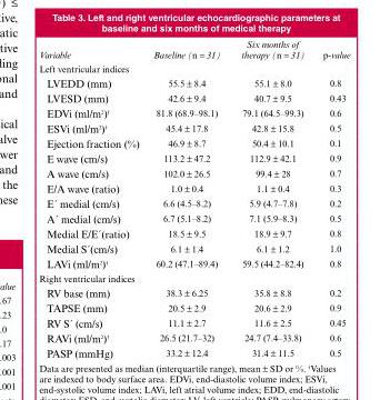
<table><thead><tr><td>Variable</td><td>Baseline (n = 31)</td><td>Six months of therapy (n = 31)</td><td>p-value</td></tr></thead><tbody><tr><td colspan="4">Left ventricular indices</td></tr><tr><td>LVEDD (mm)</td><td>55.5 ± 8.4</td><td>55.1 ± 8.0</td><td>0.8</td></tr><tr><td>LVESD (mm)</td><td>42.6 ± 9.4</td><td>40.7 ± 9.5</td><td>0.43</td></tr><tr><td>EDVi (ml/m<sup>2</sup>)†</td><td>81.8 (68.9–98.1)</td><td>79.1 (64.5–99.3)</td><td>0.6</td></tr><tr><td>ESVi (ml/m<sup>2</sup>)†</td><td>45.4 ± 17.8</td><td>42.8 ± 15.8</td><td>0.5</td></tr><tr><td>Ejection fraction (%)</td><td>46.9 ± 8.7</td><td>50.4 ± 10.1</td><td>0.1</td></tr><tr><td>E wave (cm/s)</td><td>113.2 ± 47.2</td><td>112.9 ± 42.1</td><td>0.9</td></tr><tr><td>A wave (cm/s)</td><td>102.0 ± 26.5</td><td>99.4 ± 28</td><td>0.7</td></tr><tr><td>E/A wave (ratio)</td><td>1.0 ± 0.4</td><td>1.1 ± 0.4</td><td>0.3</td></tr><tr><td>E´ medial (cm/s)</td><td>6.6 (4.5–8.2)</td><td>5.9 (4.7–7.8)</td><td>0.2</td></tr><tr><td>A´ medial (cm/s)</td><td>6.7 (5.1–8.2)</td><td>7.1 (5.9–8.3)</td><td>0.5</td></tr><tr><td>Medial E/E´(ratio)</td><td>18.5 ± 9.5</td><td>18.9 ± 9.7</td><td>0.8</td></tr><tr><td>Medial S´(cm/s)</td><td>6.1 ± 1.4</td><td>6.1 ± 1.2</td><td>1.0</td></tr><tr><td>LAVi (ml/m<sup>2</sup>)†</td><td>60.2 (47.1–89.4)</td><td>59.5 (44.2–82.4)</td><td>0.8</td></tr><tr><td colspan="4">Right ventricular indices</td></tr><tr><td>RV base (mm)</td><td>38.3 ± 6.25</td><td>35.8 ± 8.8</td><td>0.2</td></tr><tr><td>TAPSE (mm)</td><td>20.5 ± 2.9</td><td>20.6 ± 2.9</td><td>0.9</td></tr><tr><td>RV S´ (cm/s)</td><td>11.1 ± 2.7</td><td>11.6 ± 2.5</td><td>0.45</td></tr><tr><td>RAVi (ml/m<sup>2</sup>)†</td><td>26.5 (21.7–32)</td><td>24.7 (7.4–33.8)</td><td>0.6</td></tr><tr><td>PASP (mmHg)</td><td>33.2 ± 12.4</td><td>31.4 ± 11.5</td><td>0.5</td></tr></tbody></table>